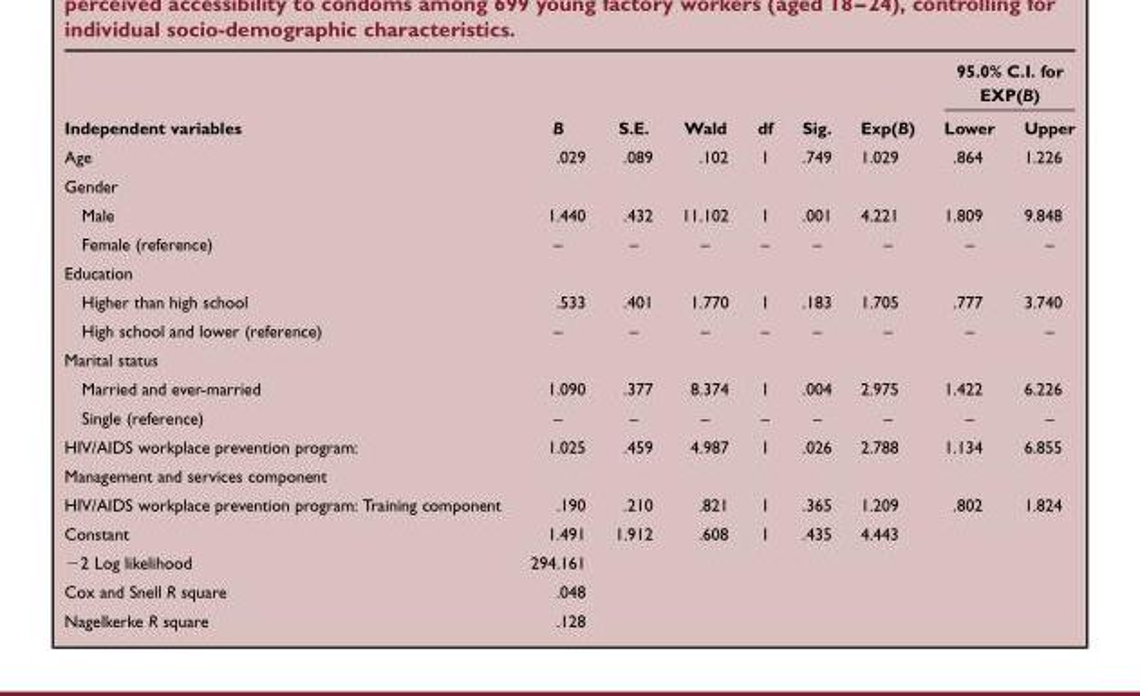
<table><thead><tr><td rowspan="2">Independent variables</td><td rowspan="2">B</td><td rowspan="2">S.E.</td><td rowspan="2">Wald</td><td rowspan="2">df</td><td rowspan="2">Sig.</td><td rowspan="2">Exp(B)</td><td colspan="2">95.0% C.I. for EXP(B)</td></tr><tr><td>Lower</td><td>Upper</td></tr></thead><tbody><tr><td>Age</td><td>.029</td><td>.089</td><td>.102</td><td>1</td><td>.749</td><td>1.029</td><td>.864</td><td>1.226</td></tr><tr><td colspan="9">Gender</td></tr><tr><td>Male</td><td>1.440</td><td>.432</td><td>11.102</td><td>1</td><td>.001</td><td>4.221</td><td>1.809</td><td>9.848</td></tr><tr><td>Female (reference)</td><td>–</td><td>–</td><td>–</td><td>–</td><td>–</td><td>–</td><td>–</td><td>–</td></tr><tr><td colspan="9">Education</td></tr><tr><td>Higher than high school</td><td>.533</td><td>.401</td><td>1.770</td><td>1</td><td>.183</td><td>1.705</td><td>.777</td><td>3.740</td></tr><tr><td>High school and lower (reference)</td><td>–</td><td>–</td><td>–</td><td>–</td><td>–</td><td>–</td><td>–</td><td>–</td></tr><tr><td colspan="9">Marital status</td></tr><tr><td>Married and ever-married</td><td>1.090</td><td>.377</td><td>8.374</td><td>1</td><td>.004</td><td>2.975</td><td>1.422</td><td>6.226</td></tr><tr><td>Single (reference)</td><td>–</td><td>–</td><td>–</td><td>–</td><td>–</td><td>–</td><td>–</td><td>–</td></tr><tr><td>HIV/AIDS workplace prevention program:</td><td>1.025</td><td>.459</td><td>4.987</td><td>1</td><td>.026</td><td>2.788</td><td>1.134</td><td>6.855</td></tr><tr><td colspan="9">Management and services component</td></tr><tr><td>HIV/AIDS workplace prevention program: Training component</td><td>.190</td><td>.210</td><td>.821</td><td>1</td><td>.365</td><td>1.209</td><td>.802</td><td>1.824</td></tr><tr><td>Constant</td><td>1.491</td><td>1.912</td><td>.608</td><td>1</td><td>.435</td><td>4.443</td><td></td><td></td></tr><tr><td>−2 Log likelihood</td><td>294.161</td><td></td><td></td><td></td><td></td><td></td><td></td><td></td></tr><tr><td>Cox and Snell R square</td><td>.048</td><td></td><td></td><td></td><td></td><td></td><td></td><td></td></tr><tr><td>Nagelkerke R square</td><td>.128</td><td></td><td></td><td></td><td></td><td></td><td></td><td></td></tr></tbody></table>